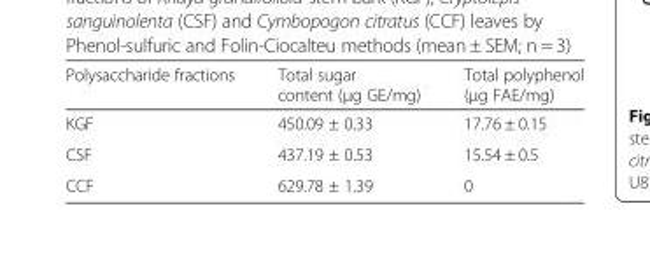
<table><thead><tr><td>Polysaccharide fractions</td><td>Total sugar content (μg GE/mg)</td><td>Total polyphenol (μg FAE/mg)</td></tr></thead><tbody><tr><td>KGF</td><td>450.09 ± 0.33</td><td>17.76 ± 0.15</td></tr><tr><td>CSF</td><td>437.19 ± 0.53</td><td>15.54 ± 0.5</td></tr><tr><td>CCF</td><td>629.78 ± 1.39</td><td>0</td></tr></tbody></table>